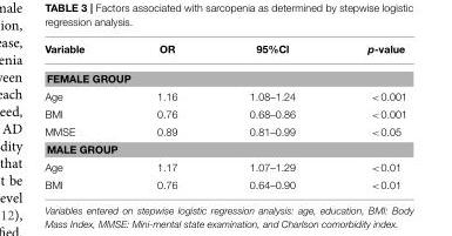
<table><thead><tr><td>Variable</td><td>OR</td><td>95%Cl</td><td>p-value</td></tr></thead><tbody><tr><td colspan="4">FEMALE GROUP</td></tr><tr><td>Age</td><td>1.16</td><td>1.08–1.24</td><td>&lt;0.001</td></tr><tr><td>BMI</td><td>0.76</td><td>0.68–0.86</td><td>&lt;0.001</td></tr><tr><td>MMSE</td><td>0.89</td><td>0.81–0.99</td><td>&lt;0.05</td></tr><tr><td colspan="4">MALE GROUP</td></tr><tr><td>Age</td><td>1.17</td><td>1.07–1.29</td><td>&lt;0.01</td></tr><tr><td>BMI</td><td>0.76</td><td>0.64–0.90</td><td>&lt;0.01</td></tr></tbody></table>